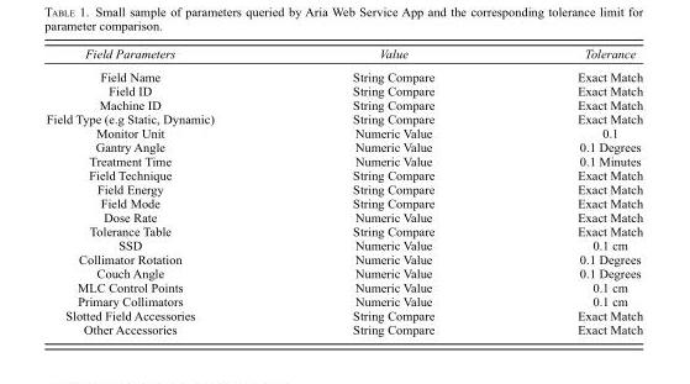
<table><thead><tr><td>Field Parameters</td><td>Value</td><td>Tolerance</td></tr></thead><tbody><tr><td>Field Name</td><td>String Compare</td><td>Exact Match</td></tr><tr><td>Field ID</td><td>String Compare</td><td>Exact Match</td></tr><tr><td>Machine ID</td><td>String Compare</td><td>Exact Match</td></tr><tr><td>Field Type (e.g Static, Dynamic)</td><td>String Compare</td><td>Exact Match</td></tr><tr><td>Monitor Unit</td><td>Numeric Value</td><td>0.1</td></tr><tr><td>Gantry Angle</td><td>Numeric Value</td><td>0.1 Degrees</td></tr><tr><td>Treatment Time</td><td>Numeric Value</td><td>0.1 Minutes</td></tr><tr><td>Field Technique</td><td>String Compare</td><td>Exact Match</td></tr><tr><td>Field Energy</td><td>String Compare</td><td>Exact Match</td></tr><tr><td>Field Mode</td><td>String Compare</td><td>Exact Match</td></tr><tr><td>Dose Rate</td><td>Numeric Value</td><td>Exact Match</td></tr><tr><td>Tolerance Table</td><td>String Compare</td><td>Exact Match</td></tr><tr><td>SSD</td><td>Numeric Value</td><td>0.1 cm</td></tr><tr><td>Collimator Rotation</td><td>Numeric Value</td><td>0.1 Degrees</td></tr><tr><td>Couch Angle</td><td>Numeric Value</td><td>0.1 Degrees</td></tr><tr><td>MLC Control Points</td><td>Numeric Value</td><td>0.1 cm</td></tr><tr><td>Primary Collimators</td><td>Numeric Value</td><td>0.1 cm</td></tr><tr><td>Slotted Field Accessories</td><td>String Compare</td><td>Exact Match</td></tr><tr><td>Other Accessories</td><td>String Compare</td><td>Exact Match</td></tr></tbody></table>